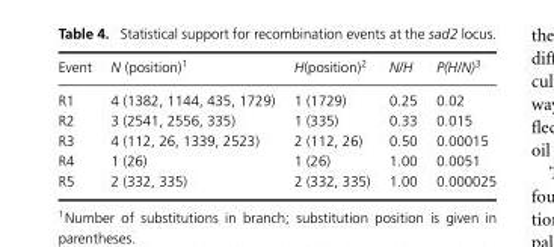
<table><thead><tr><td>Event</td><td>N (position)<sup>1</sup></td><td>H(position)<sup>2</sup></td><td>N/H</td><td>P(H/N)<sup>3</sup></td></tr></thead><tbody><tr><td>R1</td><td>4 (1382, 1144, 435, 1729)</td><td>1 (1729)</td><td>0.25</td><td>0.02</td></tr><tr><td>R2</td><td>3 (2541, 2556, 335)</td><td>1 (335)</td><td>0.33</td><td>0.015</td></tr><tr><td>R3</td><td>4 (112, 26, 1339, 2523)</td><td>2 (112, 26)</td><td>0.50</td><td>0.00015</td></tr><tr><td>R4</td><td>1 (26)</td><td>1 (26)</td><td>1.00</td><td>0.0051</td></tr><tr><td>R5</td><td>2 (332, 335)</td><td>2 (332, 335)</td><td>1.00</td><td>0.000025</td></tr></tbody></table>